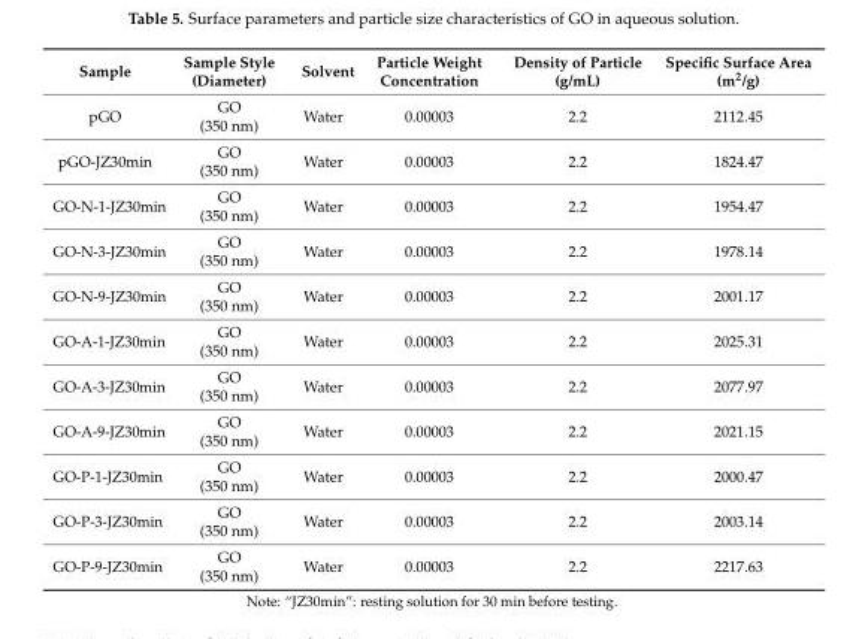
<table><thead><tr><td>Sample</td><td>Sample Style (Diameter)</td><td>Solvent</td><td>Particle Weight Concentration</td><td>Density of Particle (g/mL)</td><td>Specific Surface Area (m<sup>2</sup>/g)</td></tr></thead><tbody><tr><td>pGO</td><td>GO (350 nm)</td><td>Water</td><td>0.00003</td><td>2.2</td><td>2112.45</td></tr><tr><td>pGO-JZ30min</td><td>GO (350 nm)</td><td>Water</td><td>0.00003</td><td>2.2</td><td>1824.47</td></tr><tr><td>GO-N-1-JZ30min</td><td>GO (350 nm)</td><td>Water</td><td>0.00003</td><td>2.2</td><td>1954.47</td></tr><tr><td>GO-N-3-JZ30min</td><td>GO (350 nm)</td><td>Water</td><td>0.00003</td><td>2.2</td><td>1978.14</td></tr><tr><td>GO-N-9-JZ30min</td><td>GO (350 nm)</td><td>Water</td><td>0.00003</td><td>2.2</td><td>2001.17</td></tr><tr><td>GO-A-1-JZ30min</td><td>GO (350 nm)</td><td>Water</td><td>0.00003</td><td>2.2</td><td>2025.31</td></tr><tr><td>GO-A-3-JZ30min</td><td>GO (350 nm)</td><td>Water</td><td>0.00003</td><td>2.2</td><td>2077.97</td></tr><tr><td>GO-A-9-JZ30min</td><td>GO (350 nm)</td><td>Water</td><td>0.00003</td><td>2.2</td><td>2021.15</td></tr><tr><td>GO-P-1-JZ30min</td><td>GO (350 nm)</td><td>Water</td><td>0.00003</td><td>2.2</td><td>2000.47</td></tr><tr><td>GO-P-3-JZ30min</td><td>GO (350 nm)</td><td>Water</td><td>0.00003</td><td>2.2</td><td>2003.14</td></tr><tr><td>GO-P-9-JZ30min</td><td>GO (350 nm)</td><td>Water</td><td>0.00003</td><td>2.2</td><td>2217.63</td></tr></tbody></table>